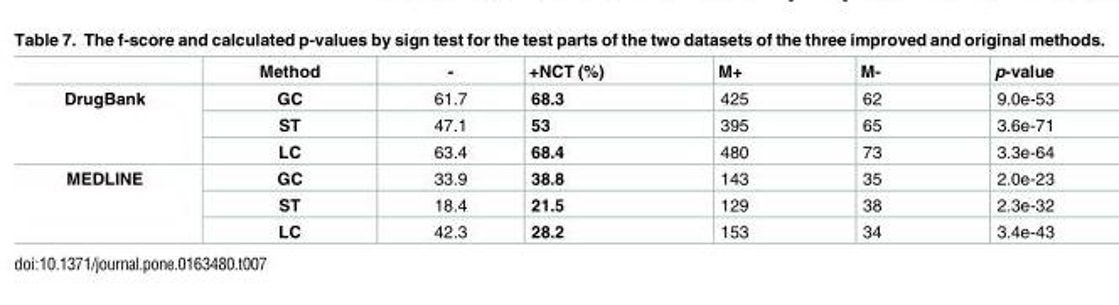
<table><thead><tr><td></td><td>Method</td><td>-</td><td>+NCT (%)</td><td>M+</td><td>M-</td><td>p-value</td></tr></thead><tbody><tr><td rowspan="3">DrugBank</td><td>GC</td><td>61.7</td><td>68.3</td><td>425</td><td>62</td><td>9.0e-53</td></tr><tr><td>ST</td><td>47.1</td><td>53</td><td>395</td><td>65</td><td>3.6e-71</td></tr><tr><td>LC</td><td>63.4</td><td>68.4</td><td>480</td><td>73</td><td>3.3e-64</td></tr><tr><td rowspan="3">MEDLINE</td><td>GC</td><td>33.9</td><td>38.8</td><td>143</td><td>35</td><td>2.0e-23</td></tr><tr><td>ST</td><td>18.4</td><td>21.5</td><td>129</td><td>38</td><td>2.3e-32</td></tr><tr><td>LC</td><td>42.3</td><td>28.2</td><td>153</td><td>34</td><td>3.4e-43</td></tr></tbody></table>